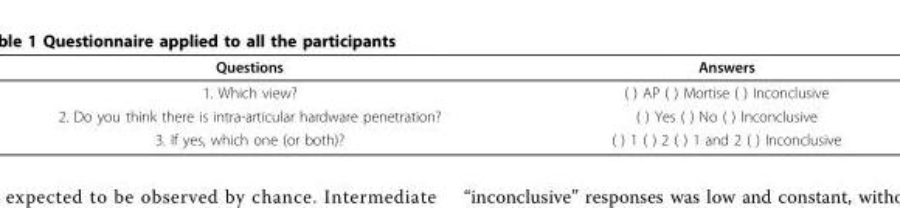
<table><thead><tr><td>Questions</td><td>Answers</td></tr></thead><tbody><tr><td>1. Which view?</td><td>( ) AP ( ) Mortise ( ) Inconclusive</td></tr><tr><td>2. Do you think there is intra-articular hardware penetration?</td><td>( ) Yes ( ) No ( ) Inconclusive</td></tr><tr><td>3. If yes, which one (or both)?</td><td>( ) 1 ( ) 2 ( ) 1 and 2 ( ) Inconclusive</td></tr></tbody></table>